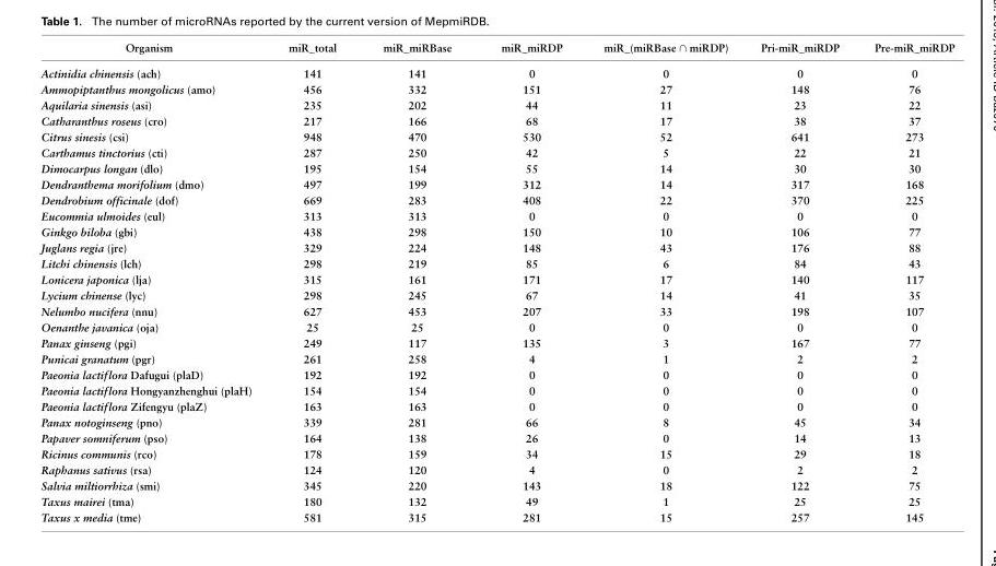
<table><thead><tr><td>Organism</td><td>miR_total</td><td>miR_miRBase</td><td>miR_miRDP</td><td>miR_(miRBase ∩ miRDP)</td><td>Pri-miR_miRDP</td><td>Pre-miR_miRDP</td></tr></thead><tbody><tr><td>Actinidia chinensis (ach)</td><td>141</td><td>141</td><td>0</td><td>0</td><td>0</td><td>0</td></tr><tr><td>Ammopiptanthus mongolicus (amo)</td><td>456</td><td>332</td><td>151</td><td>27</td><td>148</td><td>76</td></tr><tr><td>Aquilaria sinensis (asi)</td><td>235</td><td>202</td><td>44</td><td>11</td><td>23</td><td>22</td></tr><tr><td>Catharanthus roseus (cro)</td><td>217</td><td>166</td><td>68</td><td>17</td><td>38</td><td>37</td></tr><tr><td>Citrus sinesis (csi)</td><td>948</td><td>470</td><td>530</td><td>52</td><td>641</td><td>273</td></tr><tr><td>Carthamus tinctorius (cti)</td><td>287</td><td>250</td><td>42</td><td>5</td><td>22</td><td>21</td></tr><tr><td>Dimocarpus longan (dlo)</td><td>195</td><td>154</td><td>55</td><td>14</td><td>30</td><td>30</td></tr><tr><td>Dendranthema morifolium (dmo)</td><td>497</td><td>199</td><td>312</td><td>14</td><td>317</td><td>168</td></tr><tr><td>Dendrobium officinale (dof)</td><td>669</td><td>283</td><td>408</td><td>22</td><td>370</td><td>225</td></tr><tr><td>Eucommia ulmoides (eul)</td><td>313</td><td>313</td><td>0</td><td>0</td><td>0</td><td>0</td></tr><tr><td>Ginkgo biloba (gbi)</td><td>438</td><td>298</td><td>150</td><td>10</td><td>106</td><td>77</td></tr><tr><td>Juglans regia (jre)</td><td>329</td><td>224</td><td>148</td><td>43</td><td>176</td><td>88</td></tr><tr><td>Litchi chinensis (lch)</td><td>298</td><td>219</td><td>85</td><td>6</td><td>84</td><td>43</td></tr><tr><td>Lonicera japonica (lja)</td><td>315</td><td>161</td><td>171</td><td>17</td><td>140</td><td>117</td></tr><tr><td>Lycium chinense (lyc)</td><td>298</td><td>245</td><td>67</td><td>14</td><td>41</td><td>35</td></tr><tr><td>Nelumbo nucifera (nnu)</td><td>627</td><td>453</td><td>207</td><td>33</td><td>198</td><td>107</td></tr><tr><td>Oenanthe javanica (oja)</td><td>25</td><td>25</td><td>0</td><td>0</td><td>0</td><td>0</td></tr><tr><td>Panax ginseng (pgi)</td><td>249</td><td>117</td><td>135</td><td>3</td><td>167</td><td>77</td></tr><tr><td>Punicai granatum (pgr)</td><td>261</td><td>258</td><td>4</td><td>1</td><td>2</td><td>2</td></tr><tr><td>Paeonia lactiflora Dafugui (plaD)</td><td>192</td><td>192</td><td>0</td><td>0</td><td>0</td><td>0</td></tr><tr><td>Paeonia lactiflora Hongyanzhenghui (plaH)</td><td>154</td><td>154</td><td>0</td><td>0</td><td>0</td><td>0</td></tr><tr><td>Paeonia lactiflora Zifengyu (plaZ)</td><td>163</td><td>163</td><td>0</td><td>0</td><td>0</td><td>0</td></tr><tr><td>Panax notoginseng (pno)</td><td>339</td><td>281</td><td>66</td><td>8</td><td>45</td><td>34</td></tr><tr><td>Papaver somniferum (pso)</td><td>164</td><td>138</td><td>26</td><td>0</td><td>14</td><td>13</td></tr><tr><td>Ricinus communis (rco)</td><td>178</td><td>159</td><td>34</td><td>15</td><td>29</td><td>18</td></tr><tr><td>Raphanus sativus (rsa)</td><td>124</td><td>120</td><td>4</td><td>0</td><td>2</td><td>2</td></tr><tr><td>Salvia miltiorrhiza (smi)</td><td>345</td><td>220</td><td>143</td><td>18</td><td>122</td><td>75</td></tr><tr><td>Taxus mairei (tma)</td><td>180</td><td>132</td><td>49</td><td>1</td><td>25</td><td>25</td></tr><tr><td>Taxus x media (tme)</td><td>581</td><td>315</td><td>281</td><td>15</td><td>257</td><td>145</td></tr></tbody></table>